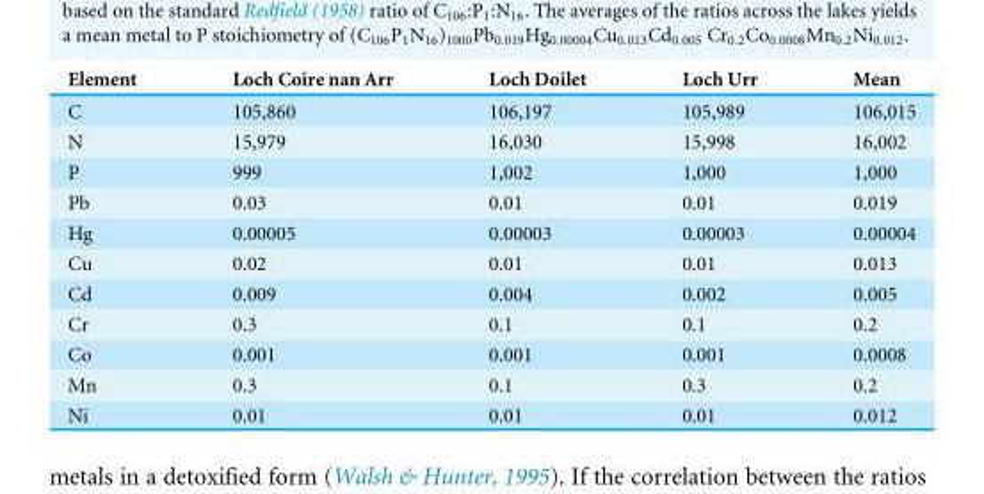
<table><thead><tr><td>Element</td><td>Loch Coire nan Arr</td><td>Loch Doilet</td><td>Loch Urr</td><td>Mean</td></tr></thead><tbody><tr><td>C</td><td>105,860</td><td>106,197</td><td>105,989</td><td>106,015</td></tr><tr><td>N</td><td>15,979</td><td>16,030</td><td>15,998</td><td>16,002</td></tr><tr><td>P</td><td>999</td><td>1,002</td><td>1,000</td><td>1,000</td></tr><tr><td>Pb</td><td>0.03</td><td>0.01</td><td>0.01</td><td>0.019</td></tr><tr><td>Hg</td><td>0.00005</td><td>0.00003</td><td>0.00003</td><td>0.00004</td></tr><tr><td>Cu</td><td>0.02</td><td>0.01</td><td>0.01</td><td>0.013</td></tr><tr><td>Cd</td><td>0.009</td><td>0.004</td><td>0.002</td><td>0.005</td></tr><tr><td>Cr</td><td>0.3</td><td>0.1</td><td>0.1</td><td>0.2</td></tr><tr><td>Co</td><td>0.001</td><td>0.001</td><td>0.001</td><td>0.0008</td></tr><tr><td>Mn</td><td>0.3</td><td>0.1</td><td>0.3</td><td>0.2</td></tr><tr><td>Ni</td><td>0.01</td><td>0.01</td><td>0.01</td><td>0.012</td></tr></tbody></table>